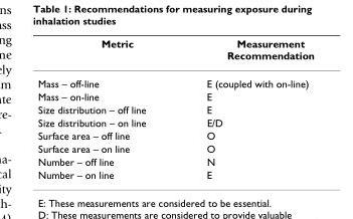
<table><thead><tr><td>Metric</td><td>Measurement Recommendation</td></tr></thead><tbody><tr><td>Mass – off-line</td><td>E (coupled with on-line)</td></tr><tr><td>Mass – on-line</td><td>E</td></tr><tr><td>Size distribution – off line</td><td>E</td></tr><tr><td>Size distribution – on line</td><td>E/D</td></tr><tr><td>Surface area – off line</td><td>O</td></tr><tr><td>Surface area – on line</td><td>O</td></tr><tr><td>Number – off line</td><td>N</td></tr><tr><td>Number – on line</td><td>E</td></tr></tbody></table>